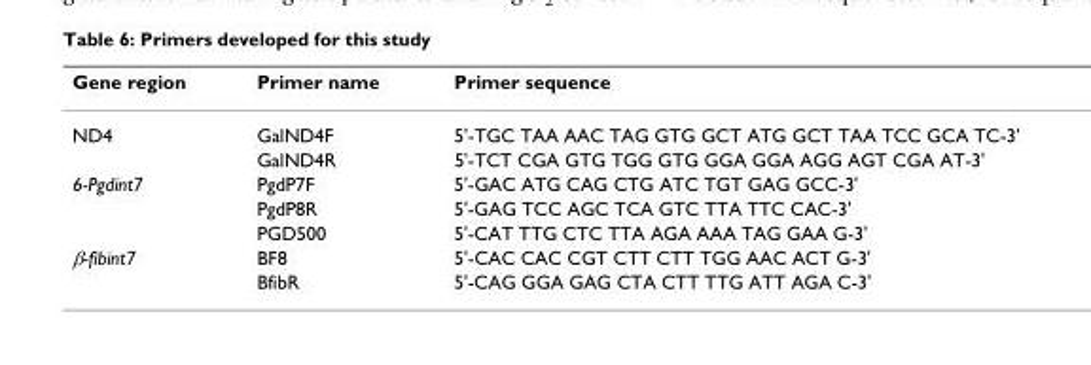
<table><thead><tr><td>Gene region</td><td>Primer name</td><td>Primer sequence</td></tr></thead><tbody><tr><td rowspan="2">ND4</td><td>GalND4F</td><td>5&#x27;-TGC TAA AAC TAG GTG GCT ATG GCT TAA TCC GCA TC-3&#x27;</td></tr><tr><td>GalND4R</td><td>5&#x27;-TCT CGA GTG TGG GTG GGA GGA AGG AGT CGA AT-3&#x27;</td></tr><tr><td rowspan="3">6-Pgdint7</td><td>PgdP7F</td><td>5&#x27;-GAC ATG CAG CTG ATC TGT GAG GCC-3&#x27;</td></tr><tr><td>PgdP8R</td><td>5&#x27;-GAG TCC AGC TCA GTC TTA TTC CAC-3&#x27;</td></tr><tr><td>PGD500</td><td>5&#x27;-CAT TTG CTC TTA AGA AAA TAG GAA G-3&#x27;</td></tr><tr><td rowspan="2">β-fibint7</td><td>BF8</td><td>5&#x27;-CAC CAC CGT CTT CTT TGG AAC ACT G-3&#x27;</td></tr><tr><td>BfibR</td><td>5&#x27;-CAG GGA GAG CTA CTT TTG ATT AGA C-3&#x27;</td></tr></tbody></table>